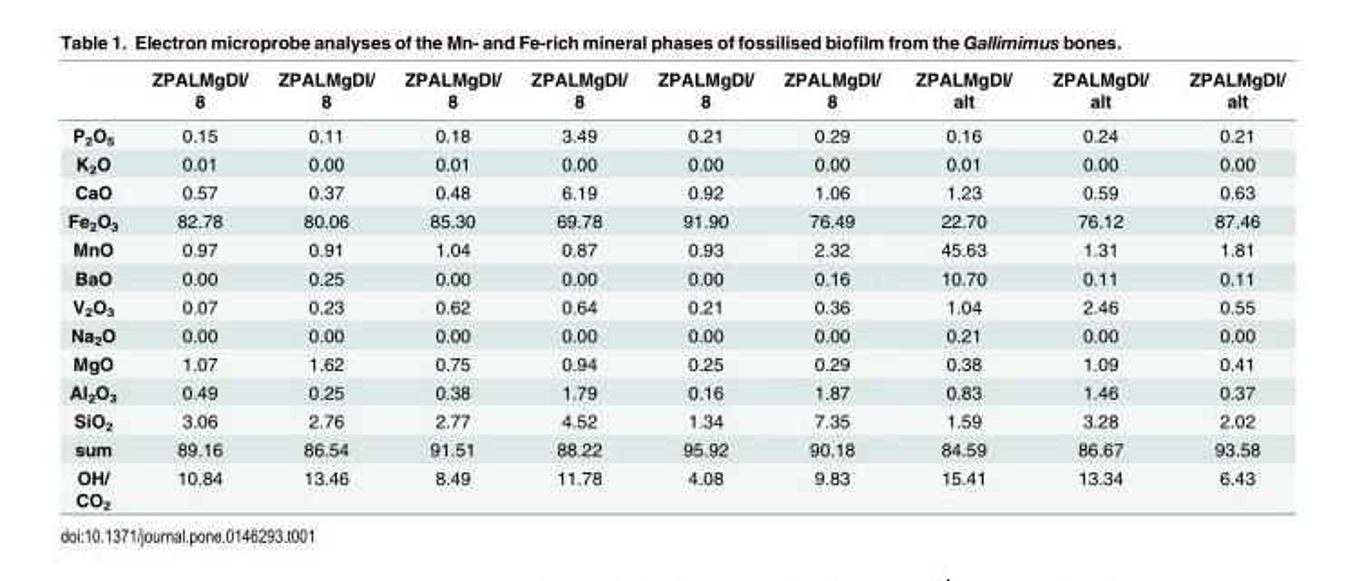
<table><thead><tr><td></td><td>ZPALMgDI/ 8</td><td>ZPALMgDI/ 8</td><td>ZPALMgDI/ 8</td><td>ZPALMgDI/ 8</td><td>ZPALMgDI/ 8</td><td>ZPALMgDI/ 8</td><td>ZPALMgDI/ alt</td><td>ZPALMgDI/ alt</td><td>ZPALMgDI/ alt</td></tr></thead><tbody><tr><td>P<sub>2</sub>O<sub>5</sub></td><td>0.15</td><td>0.11</td><td>0.18</td><td>3.49</td><td>0.21</td><td>0.29</td><td>0.16</td><td>0.24</td><td>0.21</td></tr><tr><td>K<sub>2</sub>O</td><td>0.01</td><td>0.00</td><td>0.01</td><td>0.00</td><td>0.00</td><td>0.00</td><td>0.01</td><td>0.00</td><td>0.00</td></tr><tr><td>CaO</td><td>0.57</td><td>0.37</td><td>0.48</td><td>6.19</td><td>0.92</td><td>1.06</td><td>1.23</td><td>0.59</td><td>0.63</td></tr><tr><td>Fe<sub>2</sub>O<sub>3</sub></td><td>82.78</td><td>80.06</td><td>85.30</td><td>69.78</td><td>91.90</td><td>76.49</td><td>22.70</td><td>76.12</td><td>87.46</td></tr><tr><td>MnO</td><td>0.97</td><td>0.91</td><td>1.04</td><td>0.87</td><td>0.93</td><td>2.32</td><td>45.63</td><td>1.31</td><td>1.81</td></tr><tr><td>BaO</td><td>0.00</td><td>0.25</td><td>0.00</td><td>0.00</td><td>0.00</td><td>0.16</td><td>10.70</td><td>0.11</td><td>0.11</td></tr><tr><td>V<sub>2</sub>O<sub>3</sub></td><td>0.07</td><td>0.23</td><td>0.62</td><td>0.64</td><td>0.21</td><td>0.36</td><td>1.04</td><td>2.46</td><td>0.55</td></tr><tr><td>Na<sub>2</sub>O</td><td>0.00</td><td>0.00</td><td>0.00</td><td>0.00</td><td>0.00</td><td>0.00</td><td>0.21</td><td>0.00</td><td>0.00</td></tr><tr><td>MgO</td><td>1.07</td><td>1.62</td><td>0.75</td><td>0.94</td><td>0.25</td><td>0.29</td><td>0.38</td><td>1.09</td><td>0.41</td></tr><tr><td>Al<sub>2</sub>O<sub>3</sub></td><td>0.49</td><td>0.25</td><td>0.38</td><td>1.79</td><td>0.16</td><td>1.87</td><td>0.83</td><td>1.46</td><td>0.37</td></tr><tr><td>SiO<sub>2</sub></td><td>3.06</td><td>2.76</td><td>2.77</td><td>4.52</td><td>1.34</td><td>7.35</td><td>1.59</td><td>3.28</td><td>2.02</td></tr><tr><td>sum</td><td>89.16</td><td>86.54</td><td>91.51</td><td>88.22</td><td>95.92</td><td>90.18</td><td>84.59</td><td>86.67</td><td>93.58</td></tr><tr><td>OH/ CO<sub>2</sub></td><td>10.84</td><td>13.46</td><td>8.49</td><td>11.78</td><td>4.08</td><td>9.83</td><td>15.41</td><td>13.34</td><td>6.43</td></tr></tbody></table>